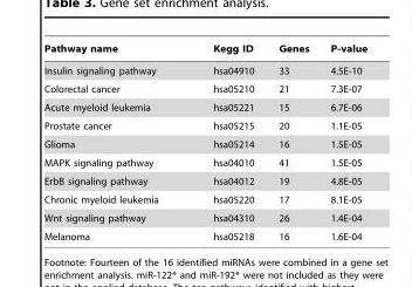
<table><thead><tr><td>Pathway name</td><td>Kegg ID</td><td>Genes</td><td>P-value</td></tr></thead><tbody><tr><td>Insulin signaling pathway</td><td>hsa04910</td><td>33</td><td>4.5E-10</td></tr><tr><td>Colorectal cancer</td><td>hsa05210</td><td>21</td><td>7.3E-07</td></tr><tr><td>Acute myeloid leukemia</td><td>hsa05221</td><td>15</td><td>6.7E-06</td></tr><tr><td>Prostate cancer</td><td>hsa05215</td><td>20</td><td>1.1E-05</td></tr><tr><td>Glioma</td><td>hsa05214</td><td>16</td><td>1.5E-05</td></tr><tr><td>MAPK signaling pathway</td><td>hsa04010</td><td>41</td><td>1.5E-05</td></tr><tr><td>ErbB signaling pathway</td><td>hsa04012</td><td>19</td><td>4.8E-05</td></tr><tr><td>Chronic myeloid leukemia</td><td>hsa05220</td><td>17</td><td>8.1E-05</td></tr><tr><td>Wnt signaling pathway</td><td>hsa04310</td><td>26</td><td>1.4E-04</td></tr><tr><td>Melanoma</td><td>hsa05218</td><td>16</td><td>1.6E-04</td></tr></tbody></table>